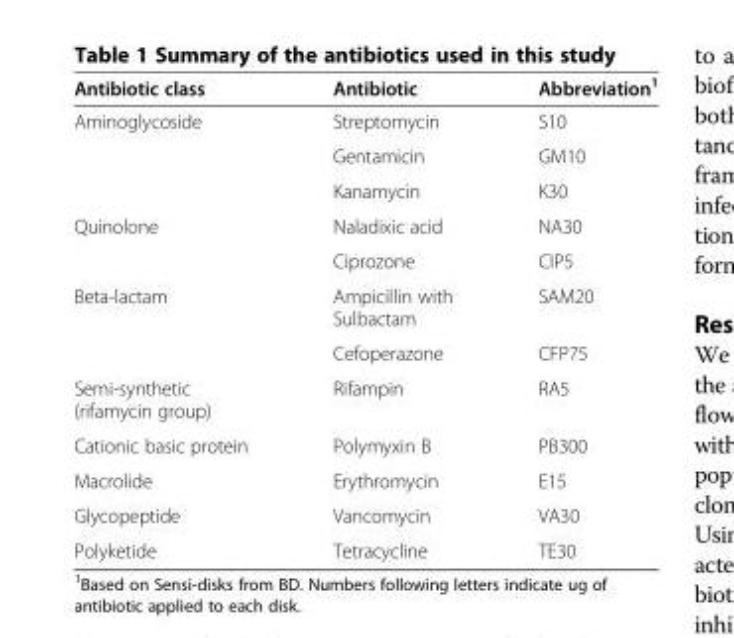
<table><thead><tr><td>Antibiotic class</td><td>Antibiotic</td><td>Abbreviation<sup>1</sup></td></tr></thead><tbody><tr><td rowspan="3">Aminoglycoside</td><td>Streptomycin</td><td>S10</td></tr><tr><td>Gentamicin</td><td>GM10</td></tr><tr><td>Kanamycin</td><td>K30</td></tr><tr><td rowspan="2">Quinolone</td><td>Naladixic acid</td><td>NA30</td></tr><tr><td>Ciprozone</td><td>CIP5</td></tr><tr><td rowspan="2">Beta-lactam</td><td>Ampicillin with Sulbactam</td><td>SAM20</td></tr><tr><td>Cefoperazone</td><td>CFP75</td></tr><tr><td>Semi-synthetic (rifamycin group)</td><td>Rifampin</td><td>RA5</td></tr><tr><td>Cationic basic protein</td><td>Polymyxin B</td><td>PB300</td></tr><tr><td>Macrolide</td><td>Erythromycin</td><td>E15</td></tr><tr><td>Glycopeptide</td><td>Vancomycin</td><td>VA30</td></tr><tr><td>Polyketide</td><td>Tetracycline</td><td>TE30</td></tr></tbody></table>